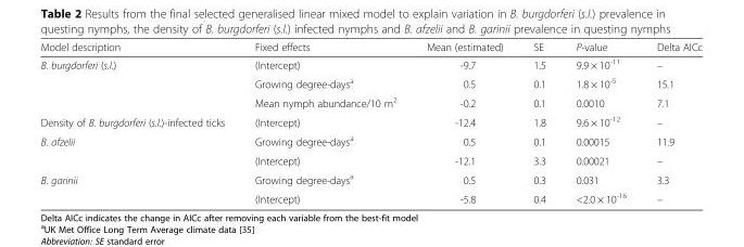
<table><thead><tr><td>Model description</td><td>Fixed effects</td><td>Mean (estimated)</td><td>SE</td><td>P-value</td><td>Delta AICc</td></tr></thead><tbody><tr><td rowspan="3">B. burgdorferi (s.l.)</td><td>(Intercept)</td><td>-9.7</td><td>1.5</td><td>9.9 × 10<sup>-11</sup></td><td>–</td></tr><tr><td>Growing degree-days<sup>a</sup></td><td>0.5</td><td>0.1</td><td>1.8 × 10<sup>-5</sup></td><td>15.1</td></tr><tr><td>Mean nymph abundance/10 m<sup>2</sup></td><td>-0.2</td><td>0.1</td><td>0.0010</td><td>7.1</td></tr><tr><td>Density of B. burgdorferi (s.l.)-infected ticks</td><td>(Intercept)</td><td>-12.4</td><td>1.8</td><td>9.6 × 10<sup>-12</sup></td><td>–</td></tr><tr><td rowspan="2">B. afzelii</td><td>Growing degree-days<sup>a</sup></td><td>0.5</td><td>0.1</td><td>0.00015</td><td>11.9</td></tr><tr><td>(Intercept)</td><td>-12.1</td><td>3.3</td><td>0.00021</td><td>–</td></tr><tr><td rowspan="2">B. garinii</td><td>Growing degree-days<sup>a</sup></td><td>0.5</td><td>0.3</td><td>0.031</td><td>3.3</td></tr><tr><td>(Intercept)</td><td>-5.8</td><td>0.4</td><td>&lt;2.0 × 10<sup>-16</sup></td><td>–</td></tr></tbody></table>